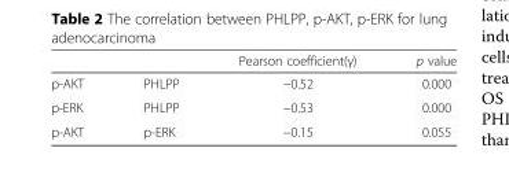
<table><thead><tr><td></td><td></td><td>Pearson coefficient(γ)</td><td>p value</td></tr></thead><tbody><tr><td>p-AKT</td><td>PHLPP</td><td>−0.52</td><td>0.000</td></tr><tr><td>p-ERK</td><td>PHLPP</td><td>−0.53</td><td>0.000</td></tr><tr><td>p-AKT</td><td>p-ERK</td><td>−0.15</td><td>0.055</td></tr></tbody></table>